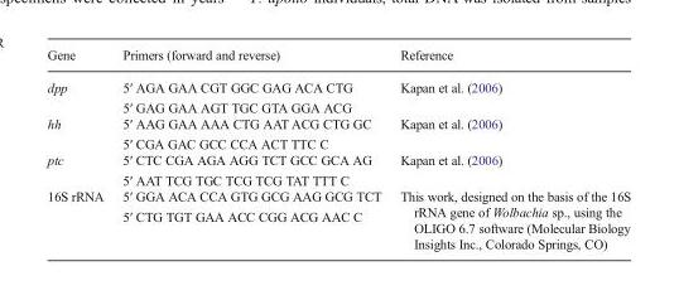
<table><thead><tr><td>Gene</td><td>Primers (forward and reverse)</td><td>Reference</td></tr></thead><tbody><tr><td>dpp</td><td>5′ AGA GAA CGT GGC GAG ACA CTG 5′ GAG GAA AGT TGC GTA GGA ACG</td><td>Kapan et al. (2006)</td></tr><tr><td>hh</td><td>5′ AAG GAA AAA CTG AAT ACG CTG GC 5′ CGA GAC GCC CCA ACT TTC C</td><td>Kapan et al. (2006)</td></tr><tr><td>ptc</td><td>5′ CTC CGA AGA AGG TCT GCC GCA AG 5′ AAT TCG TGC TCG TCG TAT TTT C</td><td>Kapan et al. (2006)</td></tr><tr><td>16S rRNA</td><td>5′ GGA ACA CCA GTG GCG AAG GCG TCT 5′ CTG TGT GAA ACC CGG ACG AAC C</td><td>This work, designed on the basis of the 16S rRNA gene of Wolbachia sp., using the OLIGO 6.7 software (Molecular Biology Insights Inc., Colorado Springs, CO)</td></tr></tbody></table>